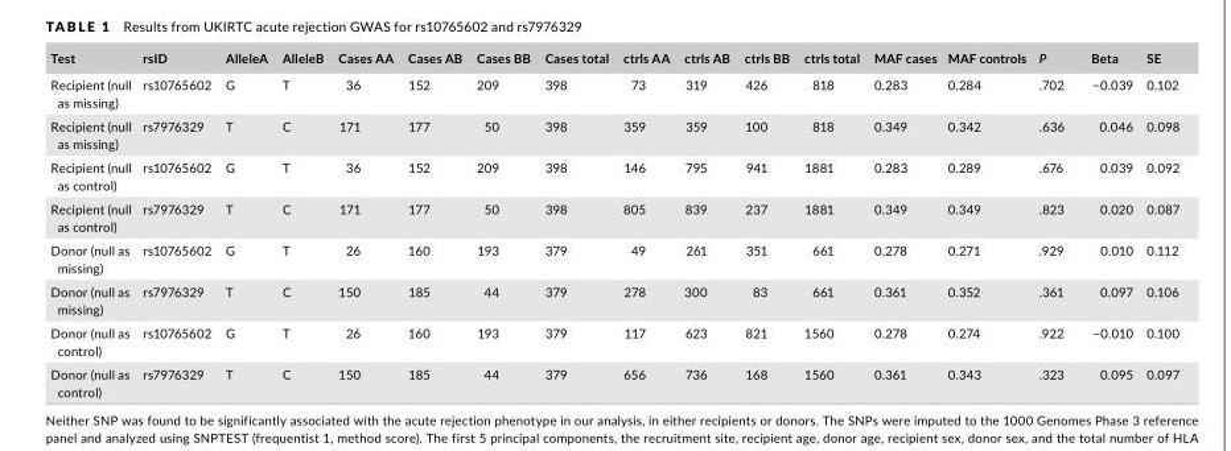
<table><thead><tr><td>Test</td><td>rsID</td><td>AlleleA</td><td>AlleleB</td><td>Cases AA</td><td>Cases AB</td><td>Cases BB</td><td>Cases total</td><td>ctrls AA</td><td>ctrls AB</td><td>ctrls BB</td><td>ctrls total</td><td>MAF cases</td><td>MAF controls</td><td>P</td><td>Beta</td><td>SE</td></tr></thead><tbody><tr><td>Recipient (null as missing)</td><td>rs10765602</td><td>G</td><td>T</td><td>36</td><td>152</td><td>209</td><td>398</td><td>73</td><td>319</td><td>426</td><td>818</td><td>0.283</td><td>0.284</td><td>.702</td><td>−0.039</td><td>0.102</td></tr><tr><td>Recipient (null as missing)</td><td>rs7976329</td><td>T</td><td>C</td><td>171</td><td>177</td><td>50</td><td>398</td><td>359</td><td>359</td><td>100</td><td>818</td><td>0.349</td><td>0.342</td><td>.636</td><td>0.046</td><td>0.098</td></tr><tr><td>Recipient (null as control)</td><td>rs10765602</td><td>G</td><td>T</td><td>36</td><td>152</td><td>209</td><td>398</td><td>146</td><td>795</td><td>941</td><td>1881</td><td>0.283</td><td>0.289</td><td>.676</td><td>0.039</td><td>0.092</td></tr><tr><td>Recipient (null as control)</td><td>rs7976329</td><td>T</td><td>C</td><td>171</td><td>177</td><td>50</td><td>398</td><td>805</td><td>839</td><td>237</td><td>1881</td><td>0.349</td><td>0.349</td><td>.823</td><td>0.020</td><td>0.087</td></tr><tr><td>Donor (null as missing)</td><td>rs10765602</td><td>G</td><td>T</td><td>26</td><td>160</td><td>193</td><td>379</td><td>49</td><td>261</td><td>351</td><td>661</td><td>0.278</td><td>0.271</td><td>.929</td><td>0.010</td><td>0.112</td></tr><tr><td>Donor (null as missing)</td><td>rs7976329</td><td>T</td><td>C</td><td>150</td><td>185</td><td>44</td><td>379</td><td>278</td><td>300</td><td>83</td><td>661</td><td>0.361</td><td>0.352</td><td>.361</td><td>0.097</td><td>0.106</td></tr><tr><td>Donor (null as control)</td><td>rs10765602</td><td>G</td><td>T</td><td>26</td><td>160</td><td>193</td><td>379</td><td>117</td><td>623</td><td>821</td><td>1560</td><td>0.278</td><td>0.274</td><td>.922</td><td>−0.010</td><td>0.100</td></tr><tr><td>Donor (null as control)</td><td>rs7976329</td><td>T</td><td>C</td><td>150</td><td>185</td><td>44</td><td>379</td><td>656</td><td>736</td><td>168</td><td>1560</td><td>0.361</td><td>0.343</td><td>.323</td><td>0.095</td><td>0.097</td></tr></tbody></table>